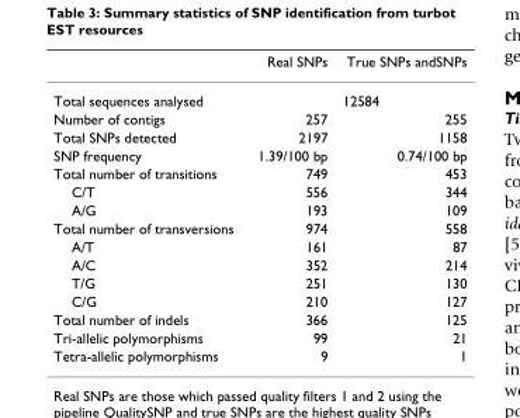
<table><thead><tr><td></td><td>Real SNPs</td><td>True SNPs andSNPs</td></tr></thead><tbody><tr><td>Total sequences analysed</td><td colspan="2">12584</td></tr><tr><td>Number of contigs</td><td>257</td><td>255</td></tr><tr><td>Total SNPs detected</td><td>2197</td><td>1158</td></tr><tr><td>SNP frequency</td><td>1.39/100 bp</td><td>0.74/100 bp</td></tr><tr><td>Total number of transitions</td><td>749</td><td>453</td></tr><tr><td>C/T</td><td>556</td><td>344</td></tr><tr><td>A/G</td><td>193</td><td>109</td></tr><tr><td>Total number of transversions</td><td>974</td><td>558</td></tr><tr><td>A/T</td><td>161</td><td>87</td></tr><tr><td>A/C</td><td>352</td><td>214</td></tr><tr><td>T/G</td><td>251</td><td>130</td></tr><tr><td>C/G</td><td>210</td><td>127</td></tr><tr><td>Total number of indels</td><td>366</td><td>125</td></tr><tr><td>Tri-allelic polymorphisms</td><td>99</td><td>21</td></tr><tr><td>Tetra-allelic polymorphisms</td><td>9</td><td>1</td></tr></tbody></table>